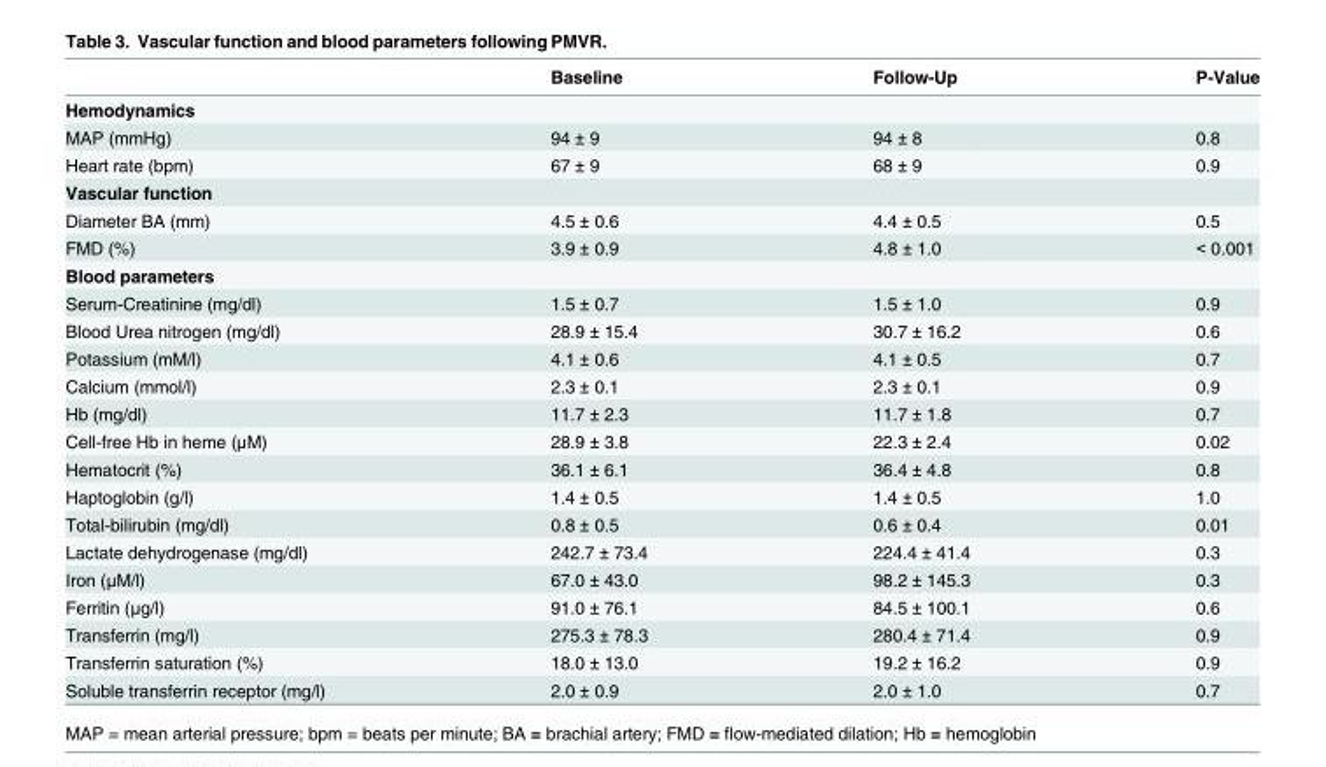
<table><thead><tr><td></td><td>Baseline</td><td>Follow-Up</td><td>P-Value</td></tr></thead><tbody><tr><td colspan="4">Hemodynamics</td></tr><tr><td>MAP (mmHg)</td><td>94 ± 9</td><td>94 ± 8</td><td>0.8</td></tr><tr><td>Heart rate (bpm)</td><td>67 ± 9</td><td>68 ± 9</td><td>0.9</td></tr><tr><td colspan="4">Vascular function</td></tr><tr><td>Diameter BA (mm)</td><td>4.5 ± 0.6</td><td>4.4 ± 0.5</td><td>0.5</td></tr><tr><td>FMD (%)</td><td>3.9 ± 0.9</td><td>4.8 ± 1.0</td><td>&lt; 0.001</td></tr><tr><td colspan="4">Blood parameters</td></tr><tr><td>Serum-Creatinine (mg/dl)</td><td>1.5 ± 0.7</td><td>1.5 ± 1.0</td><td>0.9</td></tr><tr><td>Blood Urea nitrogen (mg/dl)</td><td>28.9 ± 15.4</td><td>30.7 ± 16.2</td><td>0.6</td></tr><tr><td>Potassium (mM/l)</td><td>4.1 ± 0.6</td><td>4.1 ± 0.5</td><td>0.7</td></tr><tr><td>Calcium (mmol/l)</td><td>2.3 ± 0.1</td><td>2.3 ± 0.1</td><td>0.9</td></tr><tr><td>Hb (mg/dl)</td><td>11.7 ± 2.3</td><td>11.7 ± 1.8</td><td>0.7</td></tr><tr><td>Cell-free Hb in heme (μM)</td><td>28.9 ± 3.8</td><td>22.3 ± 2.4</td><td>0.02</td></tr><tr><td>Hematocrit (%)</td><td>36.1 ± 6.1</td><td>36.4 ± 4.8</td><td>0.8</td></tr><tr><td>Haptoglobin (g/l)</td><td>1.4 ± 0.5</td><td>1.4 ± 0.5</td><td>1.0</td></tr><tr><td>Total-bilirubin (mg/dl)</td><td>0.8 ± 0.5</td><td>0.6 ± 0.4</td><td>0.01</td></tr><tr><td>Lactate dehydrogenase (mg/dl)</td><td>242.7 ± 73.4</td><td>224.4 ± 41.4</td><td>0.3</td></tr><tr><td>Iron (μM/l)</td><td>67.0 ± 43.0</td><td>98.2 ± 145.3</td><td>0.3</td></tr><tr><td>Ferritin (μg/l)</td><td>91.0 ± 76.1</td><td>84.5 ± 100.1</td><td>0.6</td></tr><tr><td>Transferrin (mg/l)</td><td>275.3 ± 78.3</td><td>280.4 ± 71.4</td><td>0.9</td></tr><tr><td>Transferrin saturation (%)</td><td>18.0 ± 13.0</td><td>19.2 ± 16.2</td><td>0.9</td></tr><tr><td>Soluble transferrin receptor (mg/l)</td><td>2.0 ± 0.9</td><td>2.0 ± 1.0</td><td>0.7</td></tr></tbody></table>